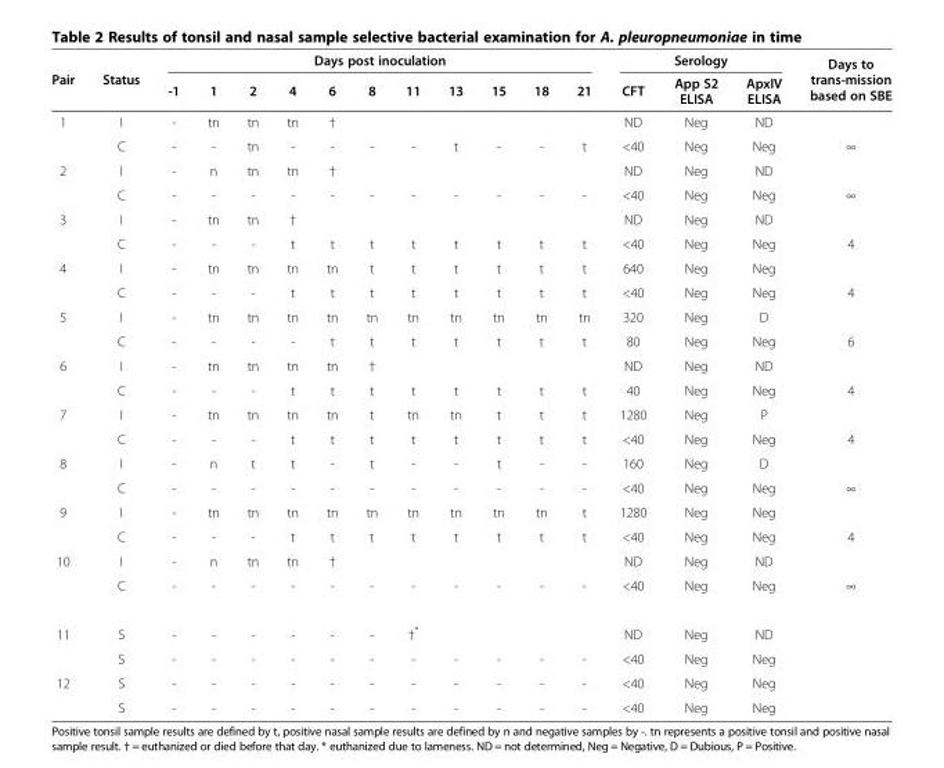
<table><thead><tr><td rowspan="2">Pair</td><td rowspan="2">Status</td><td colspan="11">Days post inoculation</td><td colspan="3">Serology</td><td rowspan="2">Days to trans-mission based on SBE</td></tr><tr><td>-1</td><td>1</td><td>2</td><td>4</td><td>6</td><td>8</td><td>11</td><td>13</td><td>15</td><td>18</td><td>21</td><td>CFT</td><td>App S2 ELISA</td><td>ApxIV ELISA</td></tr></thead><tbody><tr><td rowspan="2">1</td><td>I</td><td>-</td><td>tn</td><td>tn</td><td>tn</td><td>†</td><td></td><td></td><td></td><td></td><td></td><td></td><td>ND</td><td>Neg</td><td>ND</td><td></td></tr><tr><td>C</td><td>-</td><td>-</td><td>tn</td><td>-</td><td>-</td><td>-</td><td>-</td><td>t</td><td>-</td><td>-</td><td>t</td><td>&lt;40</td><td>Neg</td><td>Neg</td><td>∞</td></tr><tr><td rowspan="2">2</td><td>I</td><td>-</td><td>n</td><td>tn</td><td>tn</td><td>†</td><td></td><td></td><td></td><td></td><td></td><td></td><td>ND</td><td>Neg</td><td>ND</td><td></td></tr><tr><td>C</td><td>-</td><td>-</td><td>-</td><td>-</td><td>-</td><td>-</td><td>-</td><td>-</td><td>-</td><td>-</td><td>-</td><td>&lt;40</td><td>Neg</td><td>Neg</td><td>∞</td></tr><tr><td rowspan="2">3</td><td>I</td><td>-</td><td>tn</td><td>tn</td><td>†</td><td></td><td></td><td></td><td></td><td></td><td></td><td></td><td>ND</td><td>Neg</td><td>ND</td><td></td></tr><tr><td>C</td><td>-</td><td>-</td><td>-</td><td>t</td><td>t</td><td>t</td><td>t</td><td>t</td><td>t</td><td>t</td><td>t</td><td>&lt;40</td><td>Neg</td><td>Neg</td><td>4</td></tr><tr><td rowspan="2">4</td><td>I</td><td>-</td><td>tn</td><td>tn</td><td>tn</td><td>tn</td><td>t</td><td>t</td><td>t</td><td>t</td><td>t</td><td>t</td><td>640</td><td>Neg</td><td>Neg</td><td></td></tr><tr><td>C</td><td>-</td><td>-</td><td>-</td><td>t</td><td>t</td><td>t</td><td>t</td><td>t</td><td>t</td><td>t</td><td>t</td><td>&lt;40</td><td>Neg</td><td>Neg</td><td>4</td></tr><tr><td rowspan="2">5</td><td>I</td><td>-</td><td>tn</td><td>tn</td><td>tn</td><td>tn</td><td>tn</td><td>tn</td><td>tn</td><td>tn</td><td>tn</td><td>tn</td><td>320</td><td>Neg</td><td>D</td><td></td></tr><tr><td>C</td><td>-</td><td>-</td><td>-</td><td>-</td><td>t</td><td>t</td><td>t</td><td>t</td><td>t</td><td>t</td><td>t</td><td>80</td><td>Neg</td><td>Neg</td><td>6</td></tr><tr><td rowspan="2">6</td><td>I</td><td>-</td><td>tn</td><td>tn</td><td>tn</td><td>tn</td><td>†</td><td></td><td></td><td></td><td></td><td></td><td>ND</td><td>Neg</td><td>ND</td><td></td></tr><tr><td>C</td><td>-</td><td>-</td><td>-</td><td>t</td><td>t</td><td>t</td><td>t</td><td>t</td><td>t</td><td>t</td><td>t</td><td>40</td><td>Neg</td><td>Neg</td><td>4</td></tr><tr><td rowspan="2">7</td><td>I</td><td>-</td><td>tn</td><td>tn</td><td>tn</td><td>tn</td><td>t</td><td>tn</td><td>tn</td><td>t</td><td>t</td><td>t</td><td>1280</td><td>Neg</td><td>P</td><td></td></tr><tr><td>C</td><td>-</td><td>-</td><td>-</td><td>t</td><td>t</td><td>t</td><td>t</td><td>t</td><td>t</td><td>t</td><td>t</td><td>&lt;40</td><td>Neg</td><td>Neg</td><td>4</td></tr><tr><td rowspan="2">8</td><td>I</td><td>-</td><td>n</td><td>t</td><td>t</td><td>-</td><td>t</td><td>-</td><td>-</td><td>t</td><td>-</td><td>-</td><td>160</td><td>Neg</td><td>D</td><td></td></tr><tr><td>C</td><td>-</td><td>-</td><td>-</td><td>-</td><td>-</td><td>-</td><td>-</td><td>-</td><td>-</td><td>-</td><td>-</td><td>&lt;40</td><td>Neg</td><td>Neg</td><td>∞</td></tr><tr><td rowspan="2">9</td><td>I</td><td>-</td><td>tn</td><td>tn</td><td>tn</td><td>tn</td><td>tn</td><td>tn</td><td>tn</td><td>tn</td><td>tn</td><td>t</td><td>1280</td><td>Neg</td><td>Neg</td><td></td></tr><tr><td>C</td><td>-</td><td>-</td><td>-</td><td>t</td><td>t</td><td>t</td><td>t</td><td>t</td><td>t</td><td>t</td><td>t</td><td>&lt;40</td><td>Neg</td><td>Neg</td><td>4</td></tr><tr><td rowspan="2">10</td><td>I</td><td>-</td><td>n</td><td>tn</td><td>tn</td><td>†</td><td></td><td></td><td></td><td></td><td></td><td></td><td>ND</td><td>Neg</td><td>ND</td><td></td></tr><tr><td>C</td><td>-</td><td>-</td><td>-</td><td>-</td><td>-</td><td>-</td><td>-</td><td>-</td><td>-</td><td>-</td><td>-</td><td>&lt;40</td><td>Neg</td><td>Neg</td><td>∞</td></tr><tr><td rowspan="2">11</td><td>S</td><td>-</td><td>-</td><td>-</td><td>-</td><td>-</td><td>-</td><td>†*</td><td></td><td></td><td></td><td></td><td>ND</td><td>Neg</td><td>ND</td><td></td></tr><tr><td>S</td><td>-</td><td>-</td><td>-</td><td>-</td><td>-</td><td>-</td><td>-</td><td>-</td><td>-</td><td>-</td><td>-</td><td>&lt;40</td><td>Neg</td><td>Neg</td><td></td></tr><tr><td rowspan="2">12</td><td>S</td><td>-</td><td>-</td><td>-</td><td>-</td><td>-</td><td>-</td><td>-</td><td>-</td><td>-</td><td>-</td><td>-</td><td>&lt;40</td><td>Neg</td><td>Neg</td><td></td></tr><tr><td>S</td><td>-</td><td>-</td><td>-</td><td>-</td><td>-</td><td>-</td><td>-</td><td>-</td><td>-</td><td>-</td><td>-</td><td>&lt;40</td><td>Neg</td><td>Neg</td><td></td></tr></tbody></table>